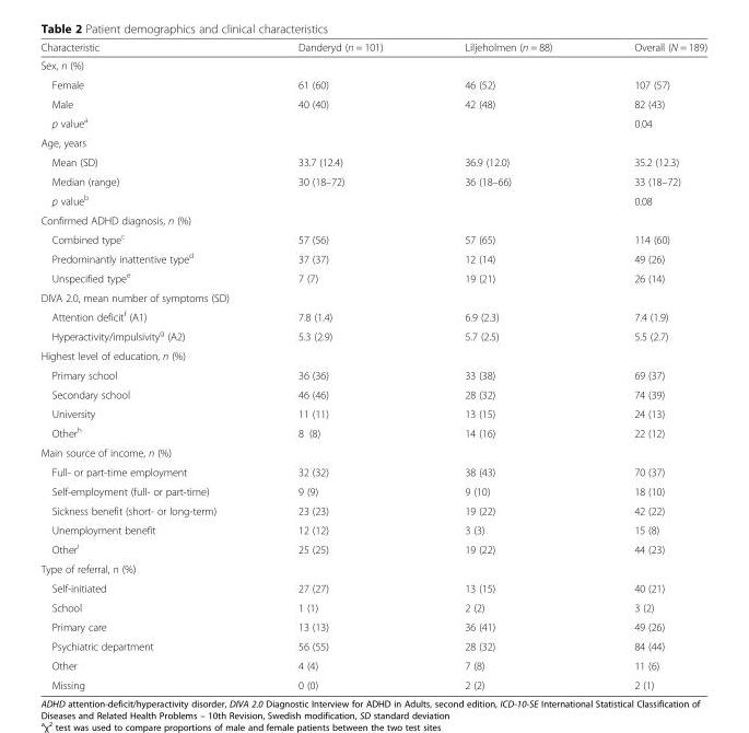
<table><thead><tr><td>Characteristic</td><td>Danderyd (n = 101)</td><td>Liljeholmen (n = 88)</td><td>Overall (N = 189)</td></tr></thead><tbody><tr><td colspan="4">Sex, n (%)</td></tr><tr><td>Female</td><td>61 (60)</td><td>46 (52)</td><td>107 (57)</td></tr><tr><td>Male</td><td>40 (40)</td><td>42 (48)</td><td>82 (43)</td></tr><tr><td>p value<sup>a</sup></td><td></td><td></td><td>0.04</td></tr><tr><td colspan="4">Age, years</td></tr><tr><td>Mean (SD)</td><td>33.7 (12.4)</td><td>36.9 (12.0)</td><td>35.2 (12.3)</td></tr><tr><td>Median (range)</td><td>30 (18–72)</td><td>36 (18–66)</td><td>33 (18–72)</td></tr><tr><td>p value<sup>b</sup></td><td></td><td></td><td>0.08</td></tr><tr><td colspan="4">Confirmed ADHD diagnosis, n (%)</td></tr><tr><td>Combined type<sup>c</sup></td><td>57 (56)</td><td>57 (65)</td><td>114 (60)</td></tr><tr><td>Predominantly inattentive type<sup>d</sup></td><td>37 (37)</td><td>12 (14)</td><td>49 (26)</td></tr><tr><td>Unspecified type<sup>e</sup></td><td>7 (7)</td><td>19 (21)</td><td>26 (14)</td></tr><tr><td colspan="4">DIVA 2.0, mean number of symptoms (SD)</td></tr><tr><td>Attention deficit<sup>f</sup> (A1)</td><td>7.8 (1.4)</td><td>6.9 (2.3)</td><td>7.4 (1.9)</td></tr><tr><td>Hyperactivity/impulsivity<sup>g</sup> (A2)</td><td>5.3 (2.9)</td><td>5.7 (2.5)</td><td>5.5 (2.7)</td></tr><tr><td colspan="4">Highest level of education, n (%)</td></tr><tr><td>Primary school</td><td>36 (36)</td><td>33 (38)</td><td>69 (37)</td></tr><tr><td>Secondary school</td><td>46 (46)</td><td>28 (32)</td><td>74 (39)</td></tr><tr><td>University</td><td>11 (11)</td><td>13 (15)</td><td>24 (13)</td></tr><tr><td>Other<sup>h</sup></td><td>8 (8)</td><td>14 (16)</td><td>22 (12)</td></tr><tr><td colspan="4">Main source of income, n (%)</td></tr><tr><td>Full- or part-time employment</td><td>32 (32)</td><td>38 (43)</td><td>70 (37)</td></tr><tr><td>Self-employment (full- or part-time)</td><td>9 (9)</td><td>9 (10)</td><td>18 (10)</td></tr><tr><td>Sickness benefit (short- or long-term)</td><td>23 (23)</td><td>19 (22)</td><td>42 (22)</td></tr><tr><td>Unemployment benefit</td><td>12 (12)</td><td>3 (3)</td><td>15 (8)</td></tr><tr><td>Other<sup>i</sup></td><td>25 (25)</td><td>19 (22)</td><td>44 (23)</td></tr><tr><td colspan="4">Type of referral, n (%)</td></tr><tr><td>Self-initiated</td><td>27 (27)</td><td>13 (15)</td><td>40 (21)</td></tr><tr><td>School</td><td>1 (1)</td><td>2 (2)</td><td>3 (2)</td></tr><tr><td>Primary care</td><td>13 (13)</td><td>36 (41)</td><td>49 (26)</td></tr><tr><td>Psychiatric department</td><td>56 (55)</td><td>28 (32)</td><td>84 (44)</td></tr><tr><td>Other</td><td>4 (4)</td><td>7 (8)</td><td>11 (6)</td></tr><tr><td>Missing</td><td>0 (0)</td><td>2 (2)</td><td>2 (1)</td></tr></tbody></table>